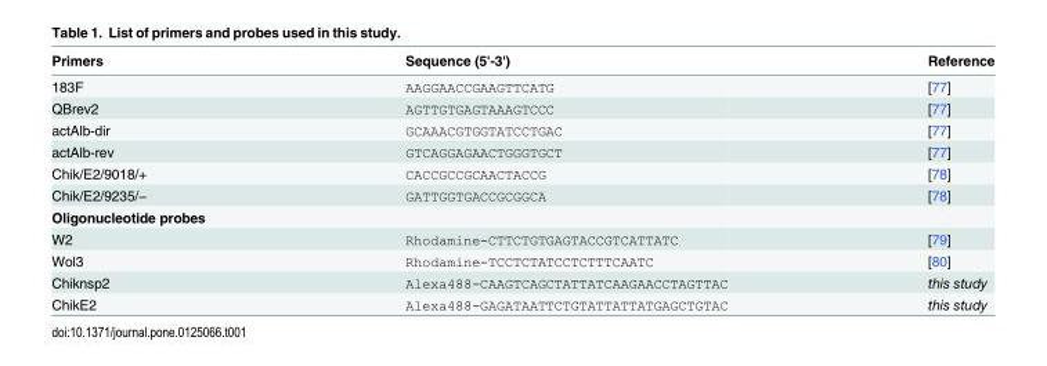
<table><thead><tr><td>Primers</td><td>Sequence (5&#x27;-3&#x27;)</td><td>Reference</td></tr></thead><tbody><tr><td>183F</td><td>AAGGAACCGAAGTTCATG</td><td>[77]</td></tr><tr><td>QBrev2</td><td>AGTTGTGAGTAAAGTCCC</td><td>[77]</td></tr><tr><td>actAlb-dir</td><td>GCAAACGTGGTATCCTGAC</td><td>[77]</td></tr><tr><td>actAlb-rev</td><td>GTCAGGAGAACTGGGTGCT</td><td>[77]</td></tr><tr><td>Chik/E2/9018/+</td><td>CACCGCCGCAACTACCG</td><td>[78]</td></tr><tr><td>Chik/E2/9235/−</td><td>GATTGGTGACCGCGGCA</td><td>[78]</td></tr><tr><td colspan="3">Oligonucleotide probes</td></tr><tr><td>W2</td><td>Rhodamine-CTTCTGTGAGTACCGTCATTATC</td><td>[79]</td></tr><tr><td>Wol3</td><td>Rhodamine-TCCTCTATCCTCTTTCAATC</td><td>[80]</td></tr><tr><td>Chiknsp2</td><td>Alexa488-CAAGTCAGCTATTATCAAGAACCTAGTTAC</td><td>this study</td></tr><tr><td>ChikE2</td><td>Alexa488-GAGATAATTCTGTATTATTATGAGCTGTAC</td><td>this study</td></tr></tbody></table>